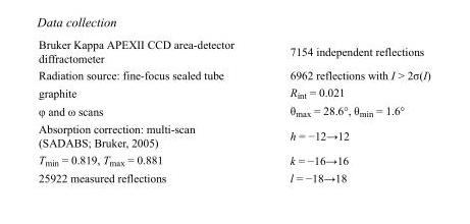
<table><tbody><tr><td>Bruker Kappa APEXII CCD area-detector diffractometer</td><td>7154 independent reflections</td></tr><tr><td>Radiation source: fine-focus sealed tube</td><td>6962 reflections with I &gt; 2σ(I)</td></tr><tr><td>graphite</td><td>R<sub>int</sub> = 0.021</td></tr><tr><td>φ and ω scans</td><td>θ<sub>max</sub> = 28.6°, θ<sub>min</sub> = 1.6°</td></tr><tr><td>Absorption correction: multi-scan (SADABS; Bruker, 2005)</td><td>h = −12→12</td></tr><tr><td>T<sub>min</sub> = 0.819, T<sub>max</sub> = 0.881</td><td>k = −16→16</td></tr><tr><td>25922 measured reflections</td><td>l = −18→18</td></tr></tbody></table>